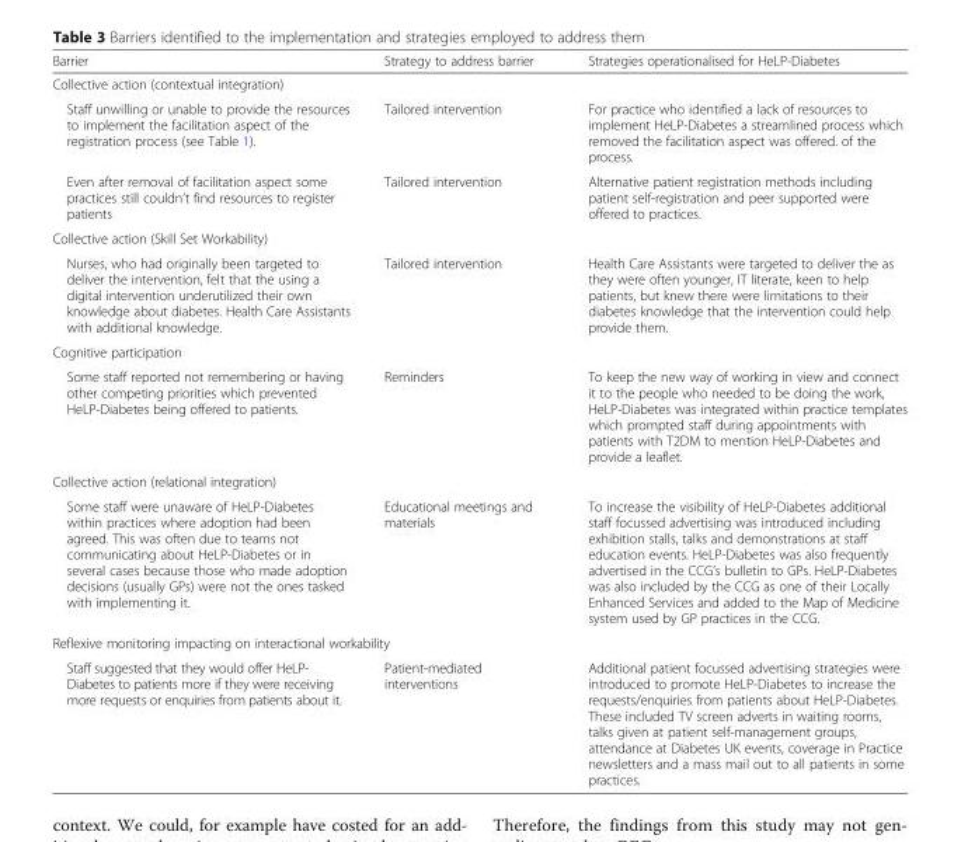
<table><thead><tr><td>Barrier</td><td>Strategy to address barrier</td><td>Strategies operationalised for HeLP-Diabetes</td></tr></thead><tbody><tr><td colspan="3">Collective action (contextual integration)</td></tr><tr><td>Staff unwilling or unable to provide the resources to implement the facilitation aspect of the registration process (see Table 1).</td><td>Tailored intervention</td><td>For practice who identified a lack of resources to implement HeLP-Diabetes a streamlined process which removed the facilitation aspect was offered. of the process.</td></tr><tr><td>Even after removal of facilitation aspect some practices still couldn’t find resources to register patients</td><td>Tailored intervention</td><td>Alternative patient registration methods including patient self-registration and peer supported were offered to practices.</td></tr><tr><td colspan="3">Collective action (Skill Set Workability)</td></tr><tr><td>Nurses, who had originally been targeted to deliver the intervention, felt that the using a digital intervention underutilized their own knowledge about diabetes. Health Care Assistants with additional knowledge.</td><td>Tailored intervention</td><td>Health Care Assistants were targeted to deliver the as they were often younger, IT literate, keen to help patients, but knew there were limitations to their diabetes knowledge that the intervention could help provide them.</td></tr><tr><td colspan="3">Cognitive participation</td></tr><tr><td>Some staff reported not remembering or having other competing priorities which prevented HeLP-Diabetes being offered to patients.</td><td>Reminders</td><td>To keep the new way of working in view and connect it to the people who needed to be doing the work, HeLP-Diabetes was integrated within practice templates which prompted staff during appointments with patients with T2DM to mention HeLP-Diabetes and provide a leaflet.</td></tr><tr><td colspan="3">Collective action (relational integration)</td></tr><tr><td>Some staff were unaware of HeLP-Diabetes within practices where adoption had been agreed. This was often due to teams not communicating about HeLP-Diabetes or in several cases because those who made adoption decisions (usually GPs) were not the ones tasked with implementing it.</td><td>Educational meetings and materials</td><td>To increase the visibility of HeLP-Diabetes additional staff focussed advertising was introduced including exhibition stalls, talks and demonstrations at staff education events. HeLP-Diabetes was also frequently advertised in the CCG’s bulletin to GPs. HeLP-Diabetes was also included by the CCG as one of their Locally Enhanced Services and added to the Map of Medicine system used by GP practices in the CCG.</td></tr><tr><td colspan="3">Reflexive monitoring impacting on interactional workability</td></tr><tr><td>Staff suggested that they would offer HeLP- Diabetes to patients more if they were receiving more requests or enquiries from patients about it.</td><td>Patient-mediated interventions</td><td>Additional patient focussed advertising strategies were introduced to promote HeLP-Diabetes to increase the requests/enquiries from patients about HeLP-Diabetes. These included TV screen adverts in waiting rooms, talks given at patient self-management groups, attendance at Diabetes UK events, coverage in Practice newsletters and a mass mail out to all patients in some practices.</td></tr></tbody></table>